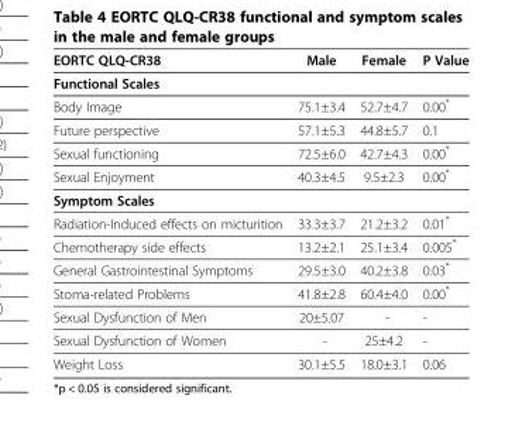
<table><thead><tr><td>EORTC QLQ-CR38</td><td>Male</td><td>Female</td><td>P Value</td></tr></thead><tbody><tr><td colspan="4">Functional Scales</td></tr><tr><td>Body Image</td><td>75.1±3.4</td><td>52.7±4.7</td><td>0.00*</td></tr><tr><td>Future perspective</td><td>57.1±5.3</td><td>44.8±5.7</td><td>0.1</td></tr><tr><td>Sexual functioning</td><td>72.5±6.0</td><td>42.7±4.3</td><td>0.00*</td></tr><tr><td>Sexual Enjoyment</td><td>40.3±4.5</td><td>9.5±2.3</td><td>0.00*</td></tr><tr><td colspan="4">Symptom Scales</td></tr><tr><td>Radiation-Induced effects on micturition</td><td>33.3±3.7</td><td>21.2±3.2</td><td>0.01*</td></tr><tr><td>Chemotherapy side effects</td><td>13.2±2.1</td><td>25.1±3.4</td><td>0.005*</td></tr><tr><td>General Gastrointestinal Symptoms</td><td>29.5±3.0</td><td>40.2±3.8</td><td>0.03*</td></tr><tr><td>Stoma-related Problems</td><td>41.8±2.8</td><td>60.4±4.0</td><td>0.00*</td></tr><tr><td>Sexual Dysfunction of Men</td><td>20±5.07</td><td>-</td><td>-</td></tr><tr><td>Sexual Dysfunction of Women</td><td>-</td><td>25±4.2</td><td>-</td></tr><tr><td>Weight Loss</td><td>30.1±5.5</td><td>18.0±3.1</td><td>0.06</td></tr></tbody></table>